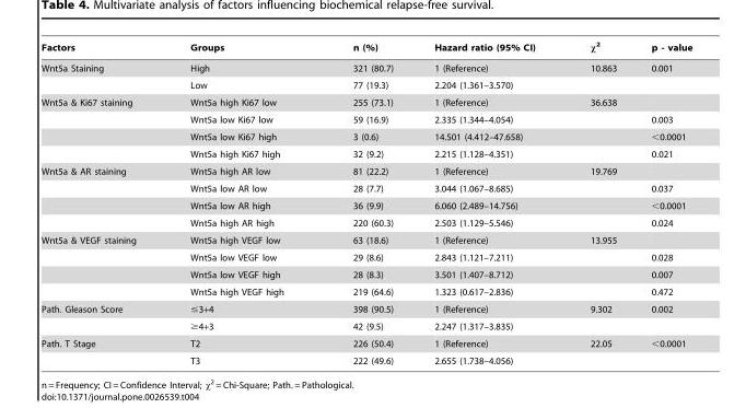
<table><thead><tr><td>Factors</td><td>Groups</td><td>n (%)</td><td>Hazard ratio (95% CI)</td><td>χ<sup>2</sup></td><td>p - value</td></tr></thead><tbody><tr><td rowspan="2">Wnt5a Staining</td><td>High</td><td>321 (80.7)</td><td>1 (Reference)</td><td>10.863</td><td>0.001</td></tr><tr><td>Low</td><td>77 (19.3)</td><td>2.204 (1.361–3.570)</td><td></td><td></td></tr><tr><td rowspan="4">Wnt5a &amp; Ki67 staining</td><td>Wnt5a high Ki67 low</td><td>255 (73.1)</td><td>1 (Reference)</td><td>36.638</td><td></td></tr><tr><td>Wnt5a low Ki67 low</td><td>59 (16.9)</td><td>2.335 (1.344–4.054)</td><td></td><td>0.003</td></tr><tr><td>Wnt5a low Ki67 high</td><td>3 (0.6)</td><td>14.501 (4.412–47.658)</td><td></td><td>&lt;0.0001</td></tr><tr><td>Wnt5a high Ki67 high</td><td>32 (9.2)</td><td>2.215 (1.128–4.351)</td><td></td><td>0.021</td></tr><tr><td rowspan="4">Wnt5a &amp; AR staining</td><td>Wnt5a high AR low</td><td>81 (22.2)</td><td>1 (Reference)</td><td>19.769</td><td></td></tr><tr><td>Wnt5a low AR low</td><td>28 (7.7)</td><td>3.044 (1.067–8.685)</td><td></td><td>0.037</td></tr><tr><td>Wnt5a low AR high</td><td>36 (9.9)</td><td>6.060 (2.489–14.756)</td><td></td><td>&lt;0.0001</td></tr><tr><td>Wnt5a high AR high</td><td>220 (60.3)</td><td>2.503 (1.129–5.546)</td><td></td><td>0.024</td></tr><tr><td rowspan="4">Wnt5a &amp; VEGF staining</td><td>Wnt5a high VEGF low</td><td>63 (18.6)</td><td>1 (Reference)</td><td>13.955</td><td></td></tr><tr><td>Wnt5a low VEGF low</td><td>29 (8.6)</td><td>2.843 (1.121–7.211)</td><td></td><td>0.028</td></tr><tr><td>Wnt5a low VEGF high</td><td>28 (8.3)</td><td>3.501 (1.407–8.712)</td><td></td><td>0.007</td></tr><tr><td>Wnt5a high VEGF high</td><td>219 (64.6)</td><td>1.323 (0.617–2.836)</td><td></td><td>0.472</td></tr><tr><td rowspan="2">Path. Gleason Score</td><td>≤3+4</td><td>398 (90.5)</td><td>1 (Reference)</td><td>9.302</td><td>0.002</td></tr><tr><td>≥4+3</td><td>42 (9.5)</td><td>2.247 (1.317–3.835)</td><td></td><td></td></tr><tr><td rowspan="2">Path. T Stage</td><td>T2</td><td>226 (50.4)</td><td>1 (Reference)</td><td>22.05</td><td>&lt;0.0001</td></tr><tr><td>T3</td><td>222 (49.6)</td><td>2.655 (1.738–4.056)</td><td></td><td></td></tr></tbody></table>